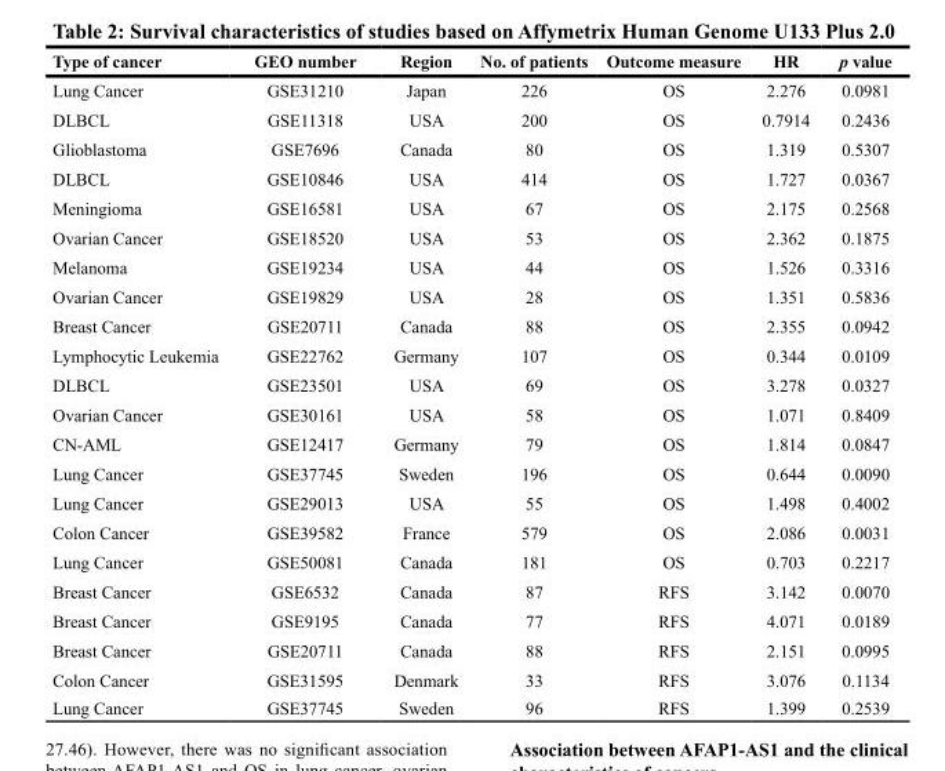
<table><thead><tr><td>Type of cancer</td><td>GEO number</td><td>Region</td><td>No. of patients</td><td>Outcome measure</td><td>HR</td><td>p value</td></tr></thead><tbody><tr><td>Lung Cancer</td><td>GSE31210</td><td>Japan</td><td>226</td><td>OS</td><td>2.276</td><td>0.0981</td></tr><tr><td>DLBCL</td><td>GSE11318</td><td>USA</td><td>200</td><td>OS</td><td>0.7914</td><td>0.2436</td></tr><tr><td>Glioblastoma</td><td>GSE7696</td><td>Canada</td><td>80</td><td>OS</td><td>1.319</td><td>0.5307</td></tr><tr><td>DLBCL</td><td>GSE10846</td><td>USA</td><td>414</td><td>OS</td><td>1.727</td><td>0.0367</td></tr><tr><td>Meningioma</td><td>GSE16581</td><td>USA</td><td>67</td><td>OS</td><td>2.175</td><td>0.2568</td></tr><tr><td>Ovarian Cancer</td><td>GSE18520</td><td>USA</td><td>53</td><td>OS</td><td>2.362</td><td>0.1875</td></tr><tr><td>Melanoma</td><td>GSE19234</td><td>USA</td><td>44</td><td>OS</td><td>1.526</td><td>0.3316</td></tr><tr><td>Ovarian Cancer</td><td>GSE19829</td><td>USA</td><td>28</td><td>OS</td><td>1.351</td><td>0.5836</td></tr><tr><td>Breast Cancer</td><td>GSE20711</td><td>Canada</td><td>88</td><td>OS</td><td>2.355</td><td>0.0942</td></tr><tr><td>Lymphocytic Leukemia</td><td>GSE22762</td><td>Germany</td><td>107</td><td>OS</td><td>0.344</td><td>0.0109</td></tr><tr><td>DLBCL</td><td>GSE23501</td><td>USA</td><td>69</td><td>OS</td><td>3.278</td><td>0.0327</td></tr><tr><td>Ovarian Cancer</td><td>GSE30161</td><td>USA</td><td>58</td><td>OS</td><td>1.071</td><td>0.8409</td></tr><tr><td>CN-AML</td><td>GSE12417</td><td>Germany</td><td>79</td><td>OS</td><td>1.814</td><td>0.0847</td></tr><tr><td>Lung Cancer</td><td>GSE37745</td><td>Sweden</td><td>196</td><td>OS</td><td>0.644</td><td>0.0090</td></tr><tr><td>Lung Cancer</td><td>GSE29013</td><td>USA</td><td>55</td><td>OS</td><td>1.498</td><td>0.4002</td></tr><tr><td>Colon Cancer</td><td>GSE39582</td><td>France</td><td>579</td><td>OS</td><td>2.086</td><td>0.0031</td></tr><tr><td>Lung Cancer</td><td>GSE50081</td><td>Canada</td><td>181</td><td>OS</td><td>0.703</td><td>0.2217</td></tr><tr><td>Breast Cancer</td><td>GSE6532</td><td>Canada</td><td>87</td><td>RFS</td><td>3.142</td><td>0.0070</td></tr><tr><td>Breast Cancer</td><td>GSE9195</td><td>Canada</td><td>77</td><td>RFS</td><td>4.071</td><td>0.0189</td></tr><tr><td>Breast Cancer</td><td>GSE20711</td><td>Canada</td><td>88</td><td>RFS</td><td>2.151</td><td>0.0995</td></tr><tr><td>Colon Cancer</td><td>GSE31595</td><td>Denmark</td><td>33</td><td>RFS</td><td>3.076</td><td>0.1134</td></tr><tr><td>Lung Cancer</td><td>GSE37745</td><td>Sweden</td><td>96</td><td>RFS</td><td>1.399</td><td>0.2539</td></tr></tbody></table>